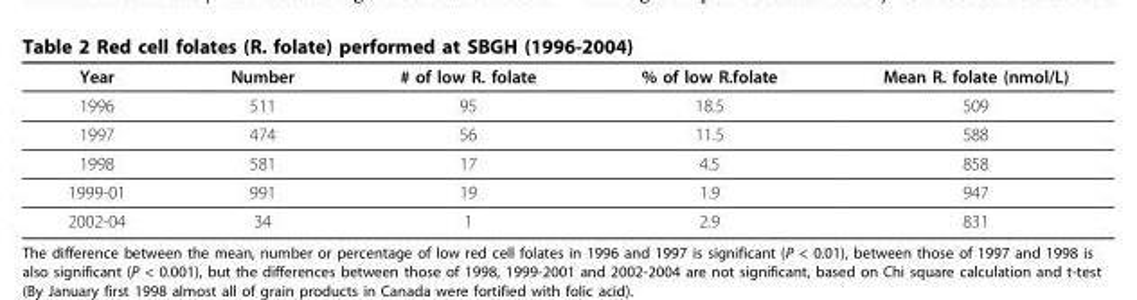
<table><thead><tr><td>Year</td><td>Number</td><td># of low R. folate</td><td>% of low R.folate</td><td>Mean R. folate (nmol/L)</td></tr></thead><tbody><tr><td>1996</td><td>511</td><td>95</td><td>18.5</td><td>509</td></tr><tr><td>1997</td><td>474</td><td>56</td><td>11.5</td><td>588</td></tr><tr><td>1998</td><td>581</td><td>17</td><td>4.5</td><td>858</td></tr><tr><td>1999-01</td><td>991</td><td>19</td><td>1.9</td><td>947</td></tr><tr><td>2002-04</td><td>34</td><td>1</td><td>2.9</td><td>831</td></tr></tbody></table>